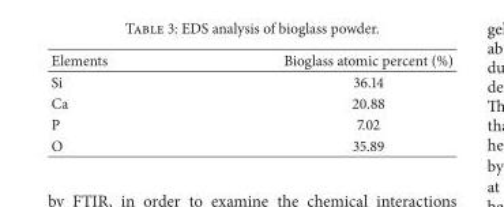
<table><thead><tr><td>Elements</td><td>Bioglass atomic percent (%)</td></tr></thead><tbody><tr><td>Si</td><td>36.14</td></tr><tr><td>Ca</td><td>20.88</td></tr><tr><td>P</td><td>7.02</td></tr><tr><td>O</td><td>35.89</td></tr></tbody></table>